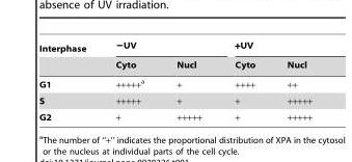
<table><thead><tr><td rowspan="2">Interphase</td><td colspan="2">−UV</td><td colspan="2">+UV</td></tr><tr><td>Cyto</td><td>Nucl</td><td>Cyto</td><td>Nucl</td></tr></thead><tbody><tr><td>G1</td><td>+++++<sup>a</sup></td><td>+</td><td>++++</td><td>++</td></tr><tr><td>S</td><td>+++++</td><td>+</td><td>+</td><td>+++++</td></tr><tr><td>G2</td><td>+</td><td>+++++</td><td>+</td><td>+++++</td></tr></tbody></table>